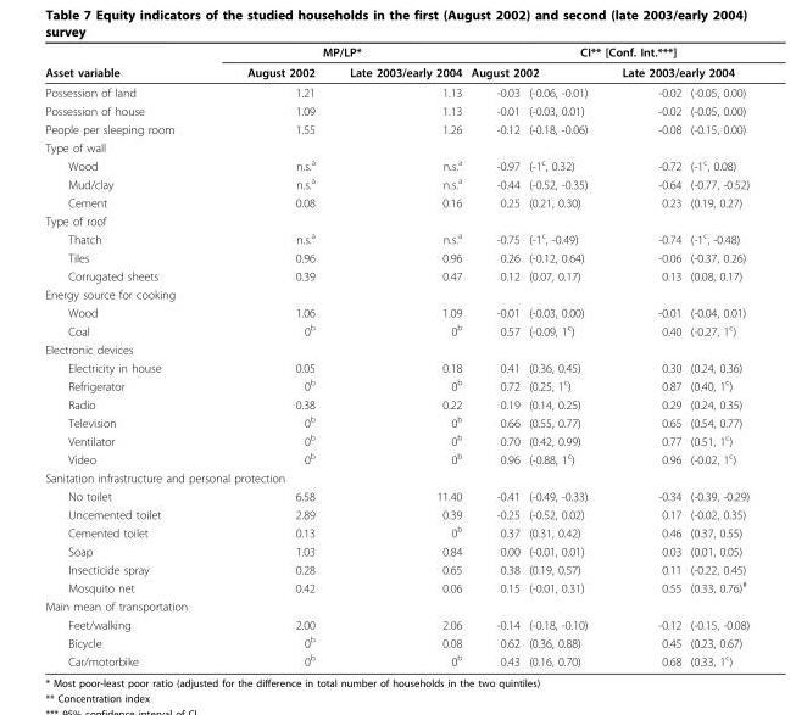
<table><thead><tr><td rowspan="3">Asset variable Possession of land</td><td colspan="2">MP/LP*</td><td colspan="4">CI** [Conf. Int.***]</td></tr><tr><td rowspan="2">August 2002 1.21</td><td rowspan="2">Late 2003/early 2004 1.13</td><td colspan="2">August 2002</td><td colspan="2">Late 2003/early 2004</td></tr><tr><td>-0.03</td><td>(-0.06, -0.01)</td><td>-0.02</td><td>(-0.05, 0.00)</td></tr></thead><tbody><tr><td>Possession of house</td><td>1.09</td><td>1.13</td><td>-0.01</td><td>(-0.03, 0.01)</td><td>-0.02</td><td>(-0.05, 0.00)</td></tr><tr><td>People per sleeping room</td><td>1.55</td><td>1.26</td><td>-0.12</td><td>(-0.18, -0.06)</td><td>-0.08</td><td>(-0.15, 0.00)</td></tr><tr><td colspan="7">Type of wall</td></tr><tr><td>Wood</td><td>n.s.<sup>a</sup></td><td>n.s.<sup>a</sup></td><td>-0.97</td><td>(-1<sup>c</sup>, 0.32)</td><td>-0.72</td><td>(-1<sup>c</sup>, 0.08)</td></tr><tr><td>Mud/clay</td><td>n.s.<sup>a</sup></td><td>n.s.<sup>a</sup></td><td>-0.44</td><td>(-0.52, -0.35)</td><td>-0.64</td><td>(-0.77, -0.52)</td></tr><tr><td>Cement</td><td>0.08</td><td>0.16</td><td>0.25</td><td>(0.21, 0.30)</td><td>0.23</td><td>(0.19, 0.27)</td></tr><tr><td colspan="7">Type of roof</td></tr><tr><td>Thatch</td><td>n.s.<sup>a</sup></td><td>n.s.<sup>a</sup></td><td>-0.75</td><td>(-1<sup>c</sup>, -0.49)</td><td>-0.74</td><td>(-1<sup>c</sup>, -0.48)</td></tr><tr><td>Tiles</td><td>0.96</td><td>0.96</td><td>0.26</td><td>(-0.12, 0.64)</td><td>-0.06</td><td>(-0.37, 0.26)</td></tr><tr><td>Corrugated sheets</td><td>0.39</td><td>0.47</td><td>0.12</td><td>(0.07, 0.17)</td><td>0.13</td><td>(0.08, 0.17)</td></tr><tr><td colspan="7">Energy source for cooking</td></tr><tr><td>Wood</td><td>1.06</td><td>1.09</td><td>-0.01</td><td>(-0.03, 0.00)</td><td>-0.01</td><td>(-0.04, 0.01)</td></tr><tr><td>Coal</td><td>0<sup>b</sup></td><td>0<sup>b</sup></td><td>0.57</td><td>(-0.09, 1<sup>c</sup>)</td><td>0.40</td><td>(-0.27, 1<sup>c</sup>)</td></tr><tr><td colspan="7">Electronic devices</td></tr><tr><td>Electricity in house</td><td>0.05</td><td>0.18</td><td>0.41</td><td>(0.36, 0.45)</td><td>0.30</td><td>(0.24, 0.36)</td></tr><tr><td>Refrigerator</td><td>0<sup>b</sup></td><td>0<sup>b</sup></td><td>0.72</td><td>(0.25, 1<sup>c</sup>)</td><td>0.87</td><td>(0.40, 1<sup>c</sup>)</td></tr><tr><td>Radio</td><td>0.38</td><td>0.22</td><td>0.19</td><td>(0.14, 0.25)</td><td>0.29</td><td>(0.24, 0.35)</td></tr><tr><td>Television</td><td>0<sup>b</sup></td><td>0<sup>b</sup></td><td>0.66</td><td>(0.55, 0.77)</td><td>0.65</td><td>(0.54, 0.77)</td></tr><tr><td>Ventilator</td><td>0<sup>b</sup></td><td>0<sup>b</sup></td><td>0.70</td><td>(0.42, 0.99)</td><td>0.77</td><td>(0.51, 1<sup>c</sup>)</td></tr><tr><td>Video</td><td>0<sup>b</sup></td><td>0<sup>b</sup></td><td>0.96</td><td>(-0.88, 1<sup>c</sup>)</td><td>0.96</td><td>(-0.02, 1<sup>c</sup>)</td></tr><tr><td colspan="7">Sanitation infrastructure and personal protection</td></tr><tr><td>No toilet</td><td>6.58</td><td>11.40</td><td>-0.41</td><td>(-0.49, -0.33)</td><td>-0.34</td><td>(-0.39, -0.29)</td></tr><tr><td>Uncemented toilet</td><td>2.89</td><td>0.39</td><td>-0.25</td><td>(-0.52, 0.02)</td><td>0.17</td><td>(-0.02, 0.35)</td></tr><tr><td>Cemented toilet</td><td>0.13</td><td>0<sup>b</sup></td><td>0.37</td><td>(0.31, 0.42)</td><td>0.46</td><td>(0.37, 0.55)</td></tr><tr><td>Soap</td><td>1.03</td><td>0.84</td><td>0.00</td><td>(-0.01, 0.01)</td><td>0.03</td><td>(0.01, 0.05)</td></tr><tr><td>Insecticide spray</td><td>0.28</td><td>0.65</td><td>0.38</td><td>(0.19, 0.57)</td><td>0.11</td><td>(-0.22, 0.45)</td></tr><tr><td>Mosquito net</td><td>0.42</td><td>0.06</td><td>0.15</td><td>(-0.01, 0.31)</td><td>0.55</td><td>(0.33, 0.76)<sup>#</sup></td></tr><tr><td colspan="7">Main mean of transportation</td></tr><tr><td>Feet/walking</td><td>2.00</td><td>2.06</td><td>-0.14</td><td>(-0.18, -0.10)</td><td>-0.12</td><td>(-0.15, -0.08)</td></tr><tr><td>Bicycle</td><td>0<sup>b</sup></td><td>0.08</td><td>0.62</td><td>(0.36, 0.88)</td><td>0.45</td><td>(0.23, 0.67)</td></tr><tr><td>Car/motorbike</td><td>0<sup>b</sup></td><td>0<sup>b</sup></td><td>0.43</td><td>(0.16, 0.70)</td><td>0.68</td><td>(0.33, 1<sup>c</sup>)</td></tr></tbody></table>